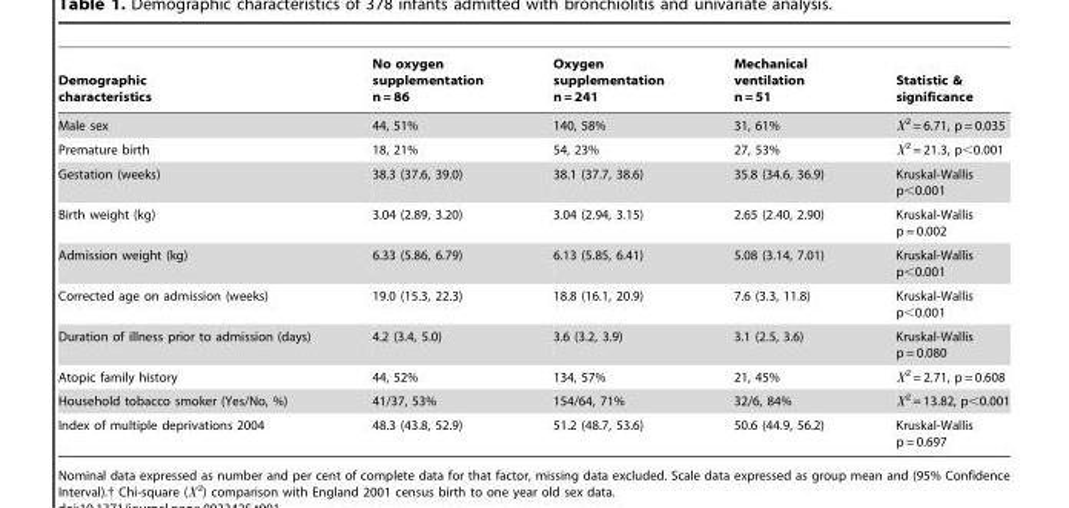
<table><thead><tr><td>Demographic characteristics</td><td>No oxygen supplementation n = 86</td><td>Oxygen supplementation n = 241</td><td>Mechanical ventilation n = 51</td><td>Statistic &amp; significance</td></tr></thead><tbody><tr><td>Male sex</td><td>44, 51%</td><td>140, 58%</td><td>31, 61%</td><td>X2 = 6.71, p = 0.035</td></tr><tr><td>Premature birth</td><td>18, 21%</td><td>54, 23%</td><td>27, 53%</td><td>X2 = 21.3, p&lt;0.001</td></tr><tr><td>Gestation (weeks)</td><td>38.3 (37.6, 39.0)</td><td>38.1 (37.7, 38.6)</td><td>35.8 (34.6, 36.9)</td><td>Kruskal-Wallis p&lt;0.001</td></tr><tr><td>Birth weight (kg)</td><td>3.04 (2.89, 3.20)</td><td>3.04 (2.94, 3.15)</td><td>2.65 (2.40, 2.90)</td><td>Kruskal-Wallis p = 0.002</td></tr><tr><td>Admission weight (kg)</td><td>6.33 (5.86, 6.79)</td><td>6.13 (5.85, 6.41)</td><td>5.08 (3.14, 7.01)</td><td>Kruskal-Wallis p&lt;0.001</td></tr><tr><td>Corrected age on admission (weeks)</td><td>19.0 (15.3, 22.3)</td><td>18.8 (16.1, 20.9)</td><td>7.6 (3.3, 11.8)</td><td>Kruskal-Wallis p&lt;0.001</td></tr><tr><td>Duration of illness prior to admission (days)</td><td>4.2 (3.4, 5.0)</td><td>3.6 (3.2, 3.9)</td><td>3.1 (2.5, 3.6)</td><td>Kruskal-Wallis p = 0.080</td></tr><tr><td>Atopic family history</td><td>44, 52%</td><td>134, 57%</td><td>21, 45%</td><td>X2 = 2.71, p = 0.608</td></tr><tr><td>Household tobacco smoker (Yes/No, %)</td><td>41/37, 53%</td><td>154/64, 71%</td><td>32/6, 84%</td><td>X2 = 13.82, p&lt;0.001</td></tr><tr><td>Index of multiple deprivations 2004</td><td>48.3 (43.8, 52.9)</td><td>51.2 (48.7, 53.6)</td><td>50.6 (44.9, 56.2)</td><td>Kruskal-Wallis p = 0.697</td></tr></tbody></table>